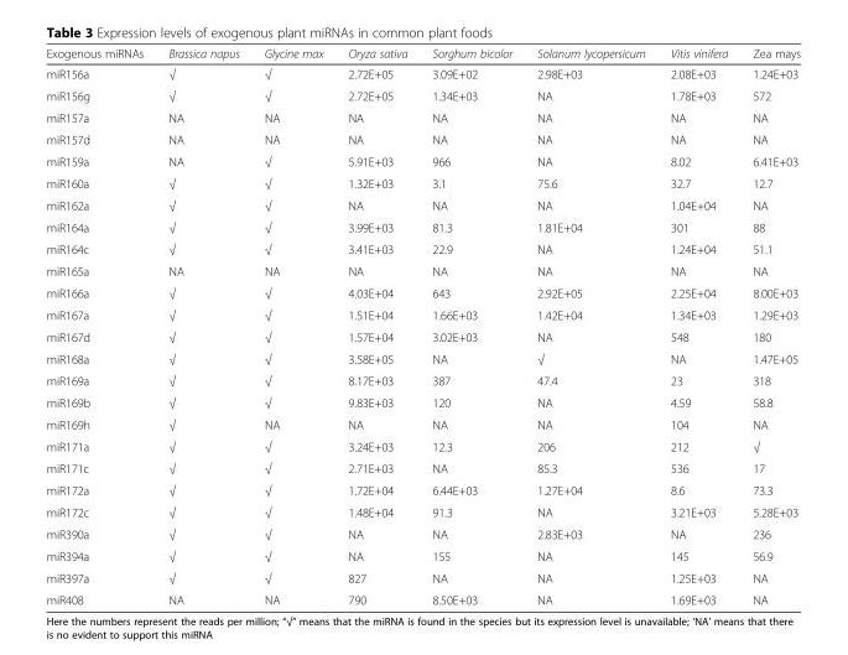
<table><thead><tr><td>Exogenous miRNAs</td><td>Brassica napus</td><td>Glycine max</td><td>Oryza sativa</td><td>Sorghum bicolor</td><td>Solanum lycopersicum</td><td>Vitis vinifera</td><td>Zea mays</td></tr></thead><tbody><tr><td>miR156a</td><td>√</td><td>√</td><td>2.72E+05</td><td>3.09E+02</td><td>2.98E+03</td><td>2.08E+03</td><td>1.24E+03</td></tr><tr><td>miR156g</td><td>√</td><td>√</td><td>2.72E+05</td><td>1.34E+03</td><td>NA</td><td>1.78E+03</td><td>572</td></tr><tr><td>miR157a</td><td>NA</td><td>NA</td><td>NA</td><td>NA</td><td>NA</td><td>NA</td><td>NA</td></tr><tr><td>miR157d</td><td>NA</td><td>NA</td><td>NA</td><td>NA</td><td>NA</td><td>NA</td><td>NA</td></tr><tr><td>miR159a</td><td>NA</td><td>√</td><td>5.91E+03</td><td>966</td><td>NA</td><td>8.02</td><td>6.41E+03</td></tr><tr><td>miR160a</td><td>√</td><td>√</td><td>1.32E+03</td><td>3.1</td><td>75.6</td><td>32.7</td><td>12.7</td></tr><tr><td>miR162a</td><td>√</td><td>√</td><td>NA</td><td>NA</td><td>NA</td><td>1.04E+04</td><td>NA</td></tr><tr><td>miR164a</td><td>√</td><td>√</td><td>3.99E+03</td><td>81.3</td><td>1.81E+04</td><td>301</td><td>88</td></tr><tr><td>miR164c</td><td>√</td><td>√</td><td>3.41E+03</td><td>22.9</td><td>NA</td><td>1.24E+04</td><td>51.1</td></tr><tr><td>miR165a</td><td>NA</td><td>NA</td><td>NA</td><td>NA</td><td>NA</td><td>NA</td><td>NA</td></tr><tr><td>miR166a</td><td>√</td><td>√</td><td>4.03E+04</td><td>643</td><td>2.92E+05</td><td>2.25E+04</td><td>8.00E+03</td></tr><tr><td>miR167a</td><td>√</td><td>√</td><td>1.51E+04</td><td>1.66E+03</td><td>1.42E+04</td><td>1.34E+03</td><td>1.29E+03</td></tr><tr><td>miR167d</td><td>√</td><td>√</td><td>1.57E+04</td><td>3.02E+03</td><td>NA</td><td>548</td><td>180</td></tr><tr><td>miR168a</td><td>√</td><td>√</td><td>3.58E+05</td><td>NA</td><td>√</td><td>NA</td><td>1.47E+05</td></tr><tr><td>miR169a</td><td>√</td><td>√</td><td>8.17E+03</td><td>387</td><td>47.4</td><td>23</td><td>318</td></tr><tr><td>miR169b</td><td>√</td><td>√</td><td>9.83E+03</td><td>120</td><td>NA</td><td>4.59</td><td>58.8</td></tr><tr><td>miR169h</td><td>√</td><td>NA</td><td>NA</td><td>NA</td><td>NA</td><td>104</td><td>NA</td></tr><tr><td>miR171a</td><td>√</td><td>√</td><td>3.24E+03</td><td>12.3</td><td>206</td><td>212</td><td>√</td></tr><tr><td>miR171c</td><td>√</td><td>√</td><td>2.71E+03</td><td>NA</td><td>85.3</td><td>536</td><td>17</td></tr><tr><td>miR172a</td><td>√</td><td>√</td><td>1.72E+04</td><td>6.44E+03</td><td>1.27E+04</td><td>8.6</td><td>73.3</td></tr><tr><td>miR172c</td><td>√</td><td>√</td><td>1.48E+04</td><td>91.3</td><td>NA</td><td>3.21E+03</td><td>5.28E+03</td></tr><tr><td>miR390a</td><td>√</td><td>√</td><td>NA</td><td>NA</td><td>2.83E+03</td><td>NA</td><td>236</td></tr><tr><td>miR394a</td><td>√</td><td>√</td><td>NA</td><td>155</td><td>NA</td><td>145</td><td>56.9</td></tr><tr><td>miR397a</td><td>√</td><td>√</td><td>827</td><td>NA</td><td>NA</td><td>1.25E+03</td><td>NA</td></tr><tr><td>miR408</td><td>NA</td><td>NA</td><td>790</td><td>8.50E+03</td><td>NA</td><td>1.69E+03</td><td>NA</td></tr></tbody></table>